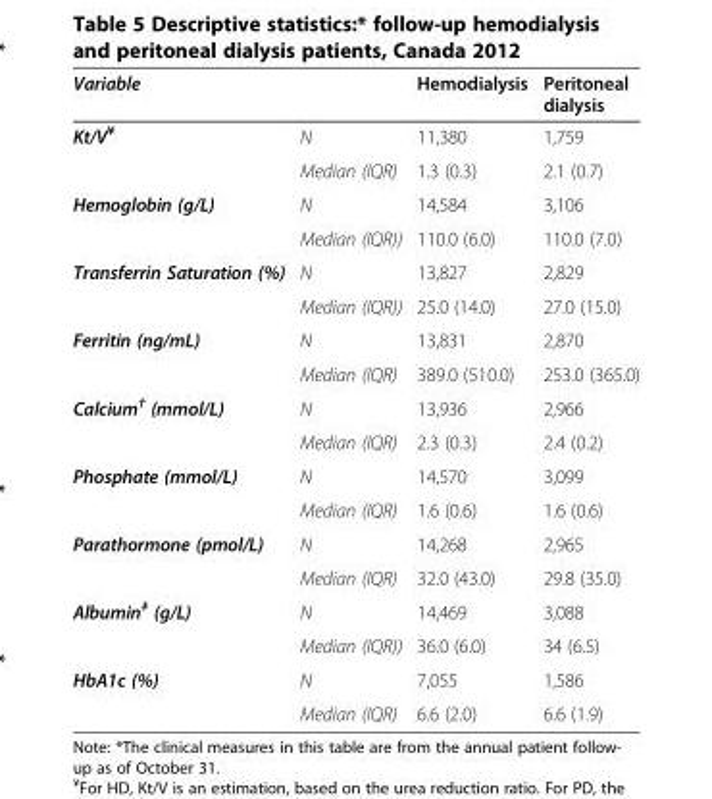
<table><thead><tr><td>Variable</td><td></td><td>Hemodialysis</td><td>Peritoneal dialysis</td></tr></thead><tbody><tr><td rowspan="2">Kt/V<sup>¥</sup></td><td>N</td><td>11,380</td><td>1,759</td></tr><tr><td>Median (IQR)</td><td>1.3 (0.3)</td><td>2.1 (0.7)</td></tr><tr><td rowspan="2">Hemoglobin (g/L)</td><td>N</td><td>14,584</td><td>3,106</td></tr><tr><td>Median (IQR))</td><td>110.0 (6.0)</td><td>110.0 (7.0)</td></tr><tr><td rowspan="2">Transferrin Saturation (%)</td><td>N</td><td>13,827</td><td>2,829</td></tr><tr><td>Median (IQR))</td><td>25.0 (14.0)</td><td>27.0 (15.0)</td></tr><tr><td rowspan="2">Ferritin (ng/mL)</td><td>N</td><td>13,831</td><td>2,870</td></tr><tr><td>Median (IQR)</td><td>389.0 (510.0)</td><td>253.0 (365.0)</td></tr><tr><td rowspan="2">Calcium<sup>†</sup> (mmol/L)</td><td>N</td><td>13,936</td><td>2,966</td></tr><tr><td>Median (IQR)</td><td>2.3 (0.3)</td><td>2.4 (0.2)</td></tr><tr><td rowspan="2">Phosphate (mmol/L)</td><td>N</td><td>14,570</td><td>3,099</td></tr><tr><td>Median (IQR)</td><td>1.6 (0.6)</td><td>1.6 (0.6)</td></tr><tr><td rowspan="2">Parathormone (pmol/L)</td><td>N</td><td>14,268</td><td>2,965</td></tr><tr><td>Median (IQR)</td><td>32.0 (43.0)</td><td>29.8 (35.0)</td></tr><tr><td rowspan="2">Albumin<sup>‡</sup> (g/L)</td><td>N</td><td>14,469</td><td>3,088</td></tr><tr><td>Median (IQR))</td><td>36.0 (6.0)</td><td>34 (6.5)</td></tr><tr><td rowspan="2">HbA1c (%)</td><td>N</td><td>7,055</td><td>1,586</td></tr><tr><td>Median (IQR)</td><td>6.6 (2.0)</td><td>6.6 (1.9)</td></tr></tbody></table>